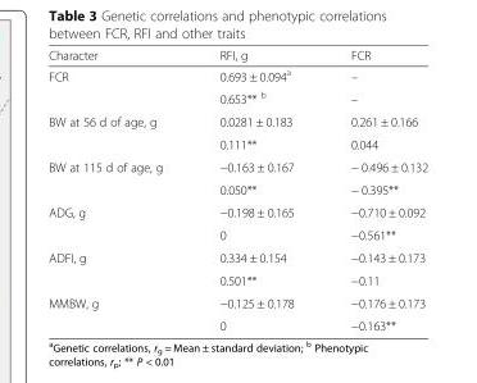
<table><thead><tr><td>Character</td><td>RFI, g</td><td>FCR</td></tr></thead><tbody><tr><td rowspan="2">FCR</td><td>0.693 ± 0.094<sup>a</sup></td><td>–</td></tr><tr><td>0.653** <sup>b</sup></td><td>–</td></tr><tr><td rowspan="2">BW at 56 d of age, g</td><td>0.0281 ± 0.183</td><td>0.261 ± 0.166</td></tr><tr><td>0.111**</td><td>0.044</td></tr><tr><td rowspan="2">BW at 115 d of age, g</td><td>−0.163 ± 0.167</td><td>− 0.496 ± 0.132</td></tr><tr><td>0.050**</td><td>− 0.395**</td></tr><tr><td rowspan="2">ADG, g</td><td>−0.198 ± 0.165</td><td>−0.710 ± 0.092</td></tr><tr><td>0</td><td>−0.561**</td></tr><tr><td rowspan="2">ADFI, g</td><td>0.334 ± 0.154</td><td>−0.143 ± 0.173</td></tr><tr><td>0.501**</td><td>−0.11</td></tr><tr><td rowspan="2">MMBW, g</td><td>−0.125 ± 0.178</td><td>−0.176 ± 0.173</td></tr><tr><td>0</td><td>−0.163**</td></tr></tbody></table>